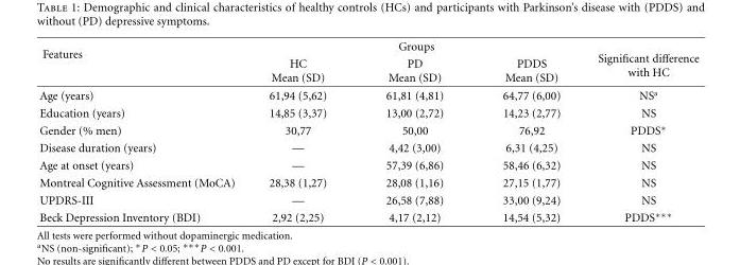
<table><thead><tr><td rowspan="2">Features</td><td colspan="3">Groups</td><td rowspan="2">Significant difference with HC</td></tr><tr><td>HC Mean (SD)</td><td>PD Mean (SD)</td><td>PDDS Mean (SD)</td></tr></thead><tbody><tr><td>Age (years)</td><td>61,94 (5,62)</td><td>61,81 (4,81)</td><td>64,77 (6,00)</td><td>NS<sup>a</sup></td></tr><tr><td>Education (years)</td><td>14,85 (3,37)</td><td>13,00 (2,72)</td><td>14,23 (2,77)</td><td>NS</td></tr><tr><td>Gender (% men)</td><td>30,77</td><td>50,00</td><td>76,92</td><td>PDDS∗</td></tr><tr><td>Disease duration (years)</td><td>—</td><td>4,42 (3,00)</td><td>6,31 (4,25)</td><td>NS</td></tr><tr><td>Age at onset (years)</td><td>—</td><td>57,39 (6,86)</td><td>58,46 (6,32)</td><td>NS</td></tr><tr><td>Montreal Cognitive Assessment (MoCA)</td><td>28,38 (1,27)</td><td>28,08 (1,16)</td><td>27,15 (1,77)</td><td>NS</td></tr><tr><td>UPDRS-III</td><td>—</td><td>26,58 (7,88)</td><td>33,00 (9,24)</td><td>NS</td></tr><tr><td>Beck Depression Inventory (BDI)</td><td>2,92 (2,25)</td><td>4,17 (2,12)</td><td>14,54 (5,32)</td><td>PDDS∗∗∗</td></tr></tbody></table>